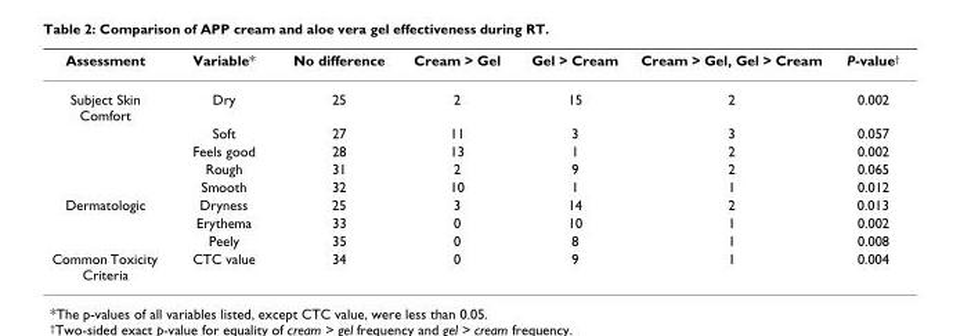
<table><thead><tr><td>Assessment</td><td>Variable*</td><td>No difference</td><td>Cream &gt; Gel</td><td>Gel &gt; Cream</td><td>Cream &gt; Gel, Gel &gt; Cream</td><td>P-value<sup>†</sup></td></tr></thead><tbody><tr><td rowspan="5">Subject Skin Comfort</td><td>Dry</td><td>25</td><td>2</td><td>15</td><td>2</td><td>0.002</td></tr><tr><td>Soft</td><td>27</td><td>11</td><td>3</td><td>3</td><td>0.057</td></tr><tr><td>Feels good</td><td>28</td><td>13</td><td>1</td><td>2</td><td>0.002</td></tr><tr><td>Rough</td><td>31</td><td>2</td><td>9</td><td>2</td><td>0.065</td></tr><tr><td>Smooth</td><td>32</td><td>10</td><td>1</td><td>1</td><td>0.012</td></tr><tr><td rowspan="3">Dermatologic</td><td>Dryness</td><td>25</td><td>3</td><td>14</td><td>2</td><td>0.013</td></tr><tr><td>Erythema</td><td>33</td><td>0</td><td>10</td><td>1</td><td>0.002</td></tr><tr><td>Peely</td><td>35</td><td>0</td><td>8</td><td>1</td><td>0.008</td></tr><tr><td>Common Toxicity Criteria</td><td>CTC value</td><td>34</td><td>0</td><td>9</td><td>1</td><td>0.004</td></tr></tbody></table>